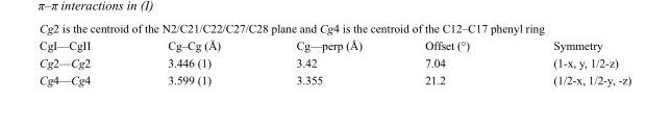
<table><tbody><tr><td>CgI—CgII</td><td>Cg–Cg (Å)</td><td>Cg—perp (Å)</td><td>Offset (°)</td><td>Symmetry</td></tr><tr><td>Cg2—Cg2</td><td>3.446 (1)</td><td>3.42</td><td>7.04</td><td>(1-x, y, 1/2-z)</td></tr><tr><td>Cg4—Cg4</td><td>3.599 (1)</td><td>3.355</td><td>21.2</td><td>(1/2-x, 1/2-y, -z)</td></tr></tbody></table>